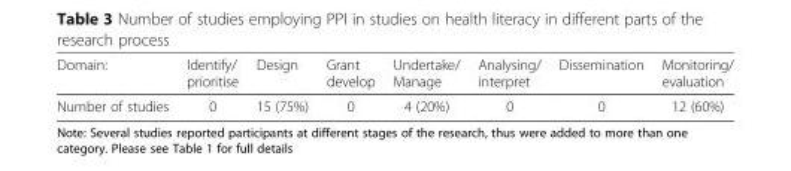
<table><thead><tr><td>Domain:</td><td>Identify/ prioritise</td><td>Design</td><td>Grant develop</td><td>Undertake/ Manage</td><td>Analysing/ interpret</td><td>Dissemination</td><td>Monitoring/ evaluation</td></tr></thead><tbody><tr><td>Number of studies</td><td>0</td><td>15 (75%)</td><td>0</td><td>4 (20%)</td><td>0</td><td>0</td><td>12 (60%)</td></tr></tbody></table>